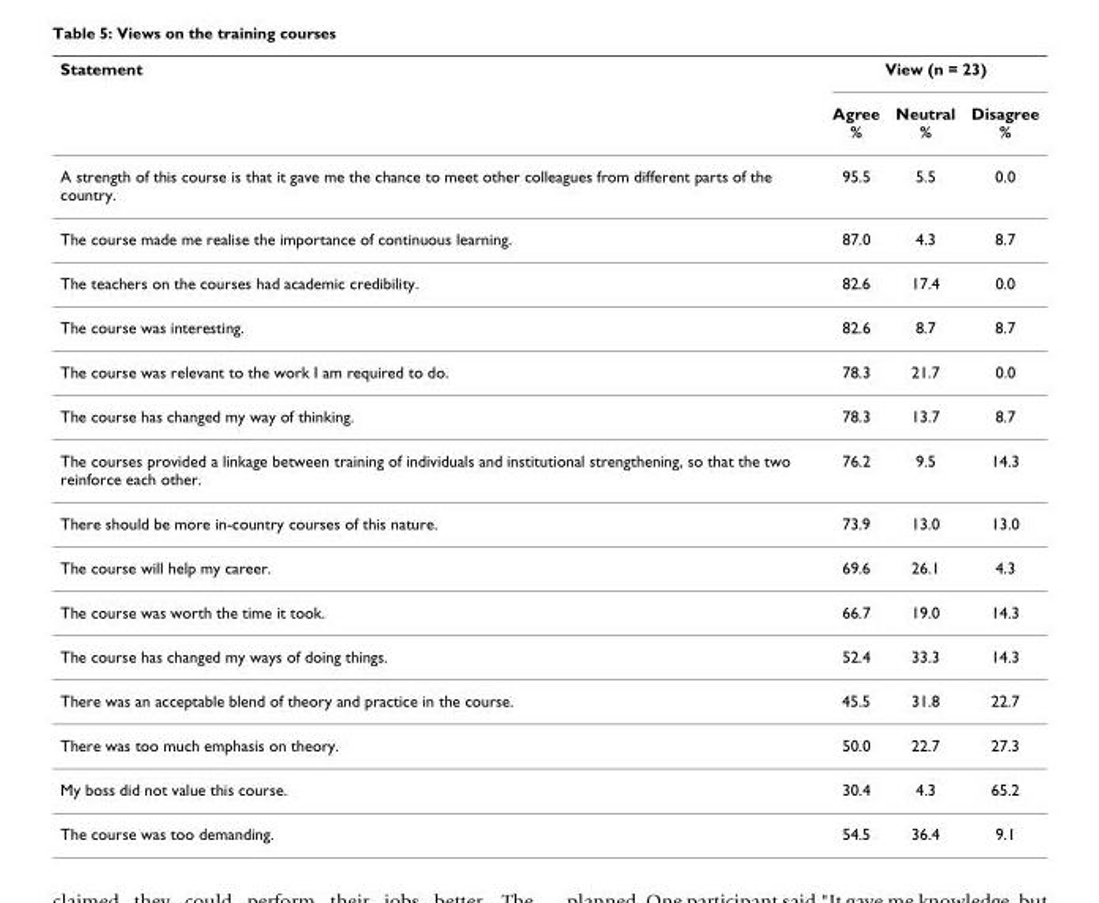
<table><thead><tr><td rowspan="2">Statement</td><td colspan="3">View (n = 23)</td></tr><tr><td>Agree %</td><td>Neutral %</td><td>Disagree %</td></tr></thead><tbody><tr><td>A strength of this course is that it gave me the chance to meet other colleagues from different parts of the country.</td><td>95.5</td><td>5.5</td><td>0.0</td></tr><tr><td>The course made me realise the importance of continuous learning.</td><td>87.0</td><td>4.3</td><td>8.7</td></tr><tr><td>The teachers on the courses had academic credibility.</td><td>82.6</td><td>17.4</td><td>0.0</td></tr><tr><td>The course was interesting.</td><td>82.6</td><td>8.7</td><td>8.7</td></tr><tr><td>The course was relevant to the work I am required to do.</td><td>78.3</td><td>21.7</td><td>0.0</td></tr><tr><td>The course has changed my way of thinking.</td><td>78.3</td><td>13.7</td><td>8.7</td></tr><tr><td>The courses provided a linkage between training of individuals and institutional strengthening, so that the two reinforce each other.</td><td>76.2</td><td>9.5</td><td>14.3</td></tr><tr><td>There should be more in-country courses of this nature.</td><td>73.9</td><td>13.0</td><td>13.0</td></tr><tr><td>The course will help my career.</td><td>69.6</td><td>26.1</td><td>4.3</td></tr><tr><td>The course was worth the time it took.</td><td>66.7</td><td>19.0</td><td>14.3</td></tr><tr><td>The course has changed my ways of doing things.</td><td>52.4</td><td>33.3</td><td>14.3</td></tr><tr><td>There was an acceptable blend of theory and practice in the course.</td><td>45.5</td><td>31.8</td><td>22.7</td></tr><tr><td>There was too much emphasis on theory.</td><td>50.0</td><td>22.7</td><td>27.3</td></tr><tr><td>My boss did not value this course.</td><td>30.4</td><td>4.3</td><td>65.2</td></tr><tr><td>The course was too demanding.</td><td>54.5</td><td>36.4</td><td>9.1</td></tr></tbody></table>